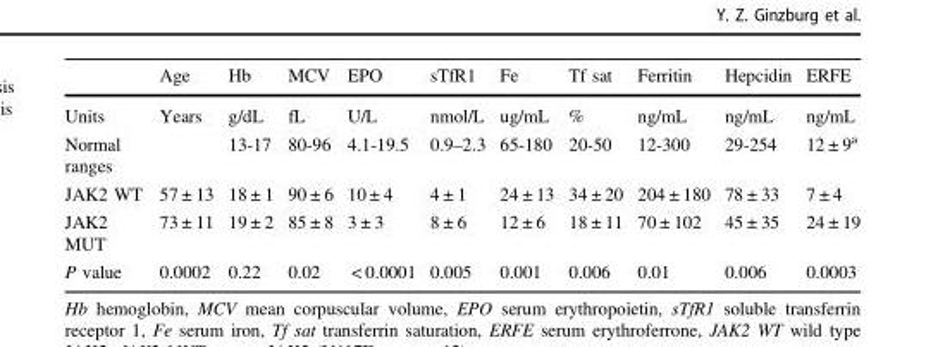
<table><thead><tr><td></td><td>Age</td><td>Hb</td><td>MCV</td><td>EPO</td><td>sTfR1</td><td>Fe</td><td>Tf sat</td><td>Ferritin</td><td>Hepcidin</td><td>ERFE</td></tr></thead><tbody><tr><td>Units</td><td>Years</td><td>g/dL</td><td>fL</td><td>U/L</td><td>nmol/L</td><td>ug/mL</td><td>%</td><td>ng/mL</td><td>ng/mL</td><td>ng/mL</td></tr><tr><td>Normal ranges</td><td></td><td>13-17</td><td>80-96</td><td>4.1-19.5</td><td>0.9–2.3</td><td>65-180</td><td>20-50</td><td>12-300</td><td>29-254</td><td>12 ± 9<sup>a</sup></td></tr><tr><td>JAK2 WT</td><td>57 ± 13</td><td>18 ± 1</td><td>90 ± 6</td><td>10 ± 4</td><td>4 ± 1</td><td>24 ± 13</td><td>34 ± 20</td><td>204 ± 180</td><td>78 ± 33</td><td>7 ± 4</td></tr><tr><td>JAK2 MUT</td><td>73 ± 11</td><td>19 ± 2</td><td>85 ± 8</td><td>3 ± 3</td><td>8 ± 6</td><td>12 ± 6</td><td>18 ± 11</td><td>70 ± 102</td><td>45 ± 35</td><td>24 ± 19</td></tr><tr><td>P value</td><td>0.0002</td><td>0.22</td><td>0.02</td><td>&lt; 0.0001</td><td>0.005</td><td>0.001</td><td>0.006</td><td>0.01</td><td>0.006</td><td>0.0003</td></tr></tbody></table>